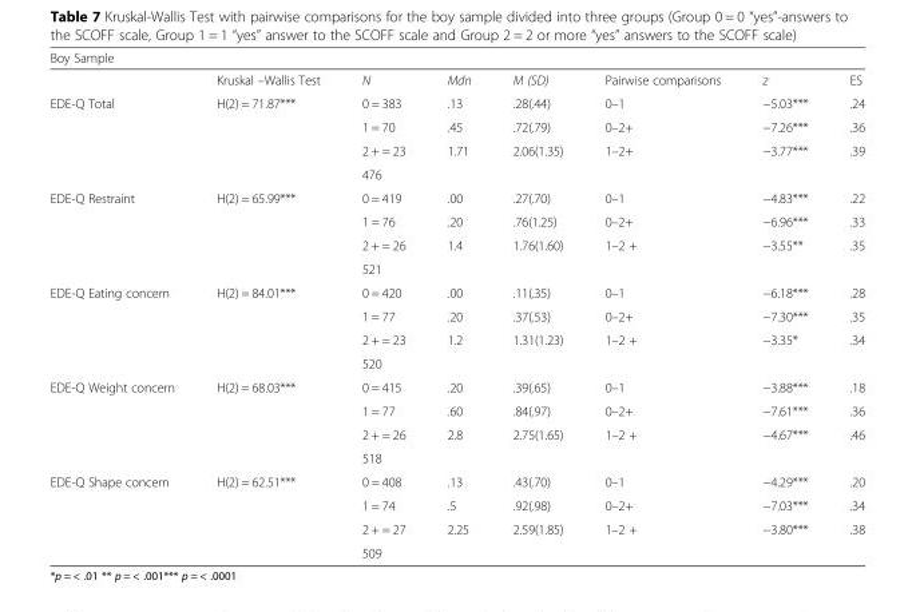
<table><thead><tr><td colspan="8">Boy Sample</td></tr><tr><td></td><td>Kruskal –Wallis Test</td><td>N</td><td>Mdn</td><td>M (SD)</td><td>Pairwise comparisons</td><td>z</td><td>ES</td></tr></thead><tbody><tr><td rowspan="4">EDE-Q Total</td><td rowspan="4">H(2) = 71.87***</td><td>0 = 383</td><td>.13</td><td>.28(.44)</td><td>0–1</td><td>−5.03***</td><td>.24</td></tr><tr><td>1 = 70</td><td>.45</td><td>.72(.79)</td><td>0–2+</td><td>−7.26***</td><td>.36</td></tr><tr><td>2 + = 23</td><td>1.71</td><td>2.06(1.35)</td><td>1–2+</td><td>−3.77***</td><td>.39</td></tr><tr><td>476</td><td></td><td></td><td></td><td></td><td></td></tr><tr><td rowspan="4">EDE-Q Restraint</td><td rowspan="4">H(2) = 65.99***</td><td>0 = 419</td><td>.00</td><td>.27(.70)</td><td>0–1</td><td>−4.83***</td><td>.22</td></tr><tr><td>1 = 76</td><td>.20</td><td>.76(1.25)</td><td>0–2+</td><td>−6.96***</td><td>.33</td></tr><tr><td>2 + = 26</td><td>1.4</td><td>1.76(1.60)</td><td>1–2 +</td><td>−3.55**</td><td>.35</td></tr><tr><td>521</td><td></td><td></td><td></td><td></td><td></td></tr><tr><td rowspan="4">EDE-Q Eating concern</td><td rowspan="4">H(2) = 84.01***</td><td>0 = 420</td><td>.00</td><td>.11(.35)</td><td>0–1</td><td>−6.18***</td><td>.28</td></tr><tr><td>1 = 77</td><td>.20</td><td>.37(.53)</td><td>0–2+</td><td>−7.30***</td><td>.35</td></tr><tr><td>2 + = 23</td><td>1.2</td><td>1.31(1.23)</td><td>1–2 +</td><td>−3.35*</td><td>.34</td></tr><tr><td>520</td><td></td><td></td><td></td><td></td><td></td></tr><tr><td rowspan="4">EDE-Q Weight concern</td><td rowspan="4">H(2) = 68.03***</td><td>0 = 415</td><td>.20</td><td>.39(.65)</td><td>0–1</td><td>−3.88***</td><td>.18</td></tr><tr><td>1 = 77</td><td>.60</td><td>.84(.97)</td><td>0–2+</td><td>−7.61***</td><td>.36</td></tr><tr><td>2 + = 26</td><td>2.8</td><td>2.75(1.65)</td><td>1–2 +</td><td>−4.67***</td><td>.46</td></tr><tr><td>518</td><td></td><td></td><td></td><td></td><td></td></tr><tr><td rowspan="4">EDE-Q Shape concern</td><td rowspan="4">H(2) = 62.51***</td><td>0 = 408</td><td>.13</td><td>.43(.70)</td><td>0–1</td><td>−4.29***</td><td>.20</td></tr><tr><td>1 = 74</td><td>.5</td><td>.92(.98)</td><td>0–2+</td><td>−7.03***</td><td>.34</td></tr><tr><td>2 + = 27</td><td>2.25</td><td>2.59(1.85)</td><td>1–2 +</td><td>−3.80***</td><td>.38</td></tr><tr><td>509</td><td></td><td></td><td></td><td></td><td></td></tr></tbody></table>